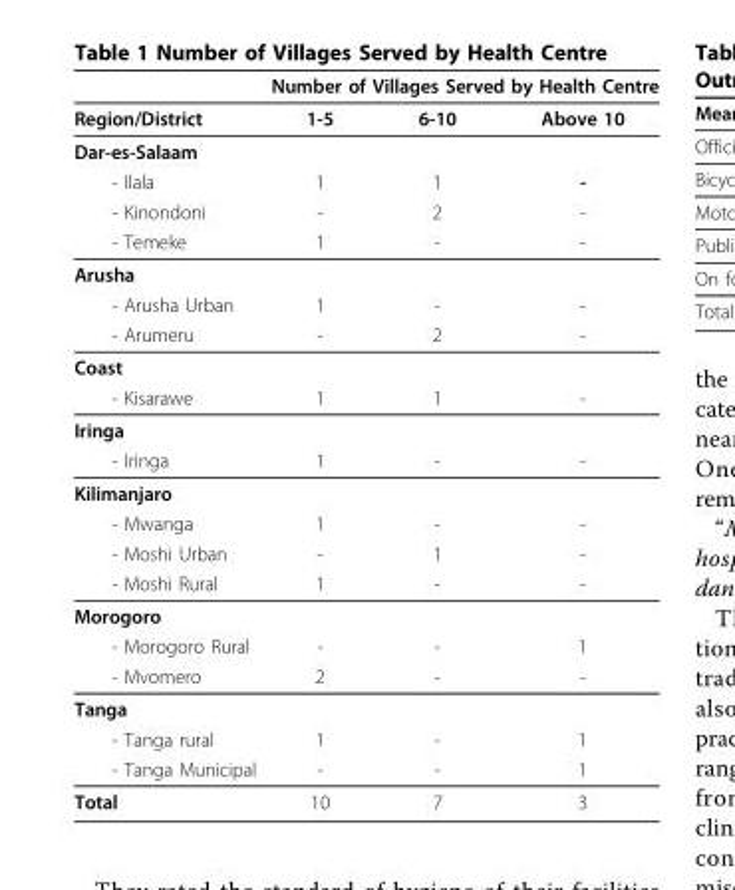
<table><thead><tr><td rowspan="2">Region/District</td><td colspan="3">Number of Villages Served by Health Centre</td></tr><tr><td>1-5</td><td>6-10</td><td>Above 10</td></tr></thead><tbody><tr><td colspan="4">Dar-es-Salaam</td></tr><tr><td>- Ilala</td><td>1</td><td>1</td><td>-</td></tr><tr><td>- Kinondoni</td><td>-</td><td>2</td><td>-</td></tr><tr><td>- Temeke</td><td>1</td><td>-</td><td>-</td></tr><tr><td colspan="4">Arusha</td></tr><tr><td>- Arusha Urban</td><td>1</td><td>-</td><td>-</td></tr><tr><td>- Arumeru</td><td>-</td><td>2</td><td>-</td></tr><tr><td colspan="4">Coast</td></tr><tr><td>- Kisarawe</td><td>1</td><td>1</td><td>-</td></tr><tr><td colspan="4">Iringa</td></tr><tr><td>- Iringa</td><td>1</td><td>-</td><td>-</td></tr><tr><td colspan="4">Kilimanjaro</td></tr><tr><td>- Mwanga</td><td>1</td><td>-</td><td>-</td></tr><tr><td>- Moshi Urban</td><td>-</td><td>1</td><td>-</td></tr><tr><td>- Moshi Rural</td><td>1</td><td>-</td><td>-</td></tr><tr><td colspan="4">Morogoro</td></tr><tr><td>- Morogoro Rural</td><td>-</td><td>-</td><td>1</td></tr><tr><td>- Mvomero</td><td>2</td><td>-</td><td>-</td></tr><tr><td colspan="4">Tanga</td></tr><tr><td>- Tanga rural</td><td>1</td><td>-</td><td>1</td></tr><tr><td>- Tanga Municipal</td><td>-</td><td>-</td><td>1</td></tr><tr><td>Total</td><td>10</td><td>7</td><td>3</td></tr></tbody></table>